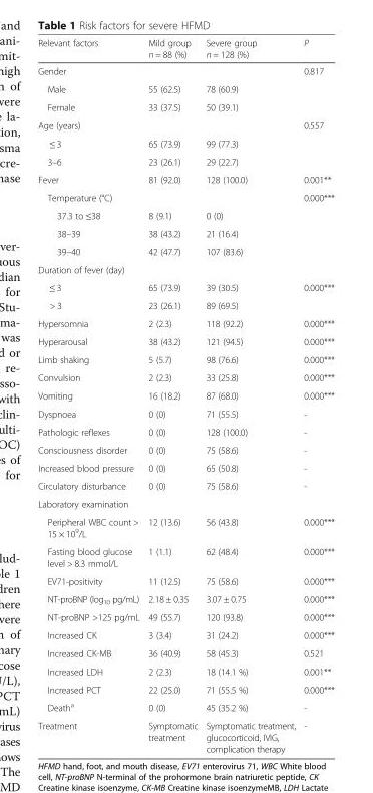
<table><thead><tr><td>Relevant factors</td><td>Mild group n = 88 (%)</td><td>Severe group n = 128 (%)</td><td>P</td></tr></thead><tbody><tr><td>Gender</td><td></td><td></td><td>0.817</td></tr><tr><td>Male</td><td>55 (62.5)</td><td>78 (60.9)</td><td></td></tr><tr><td>Female</td><td>33 (37.5)</td><td>50 (39.1)</td><td></td></tr><tr><td>Age (years)</td><td></td><td></td><td>0.557</td></tr><tr><td>≤ 3</td><td>65 (73.9)</td><td>99 (77.3)</td><td></td></tr><tr><td>3–6</td><td>23 (26.1)</td><td>29 (22.7)</td><td></td></tr><tr><td>Fever</td><td>81 (92.0)</td><td>128 (100.0)</td><td>0.001**</td></tr><tr><td>Temperature (°C)</td><td></td><td></td><td>0.000***</td></tr><tr><td>37.3 to ≤38</td><td>8 (9.1)</td><td>0 (0)</td><td></td></tr><tr><td>38–39</td><td>38 (43.2)</td><td>21 (16.4)</td><td></td></tr><tr><td>39–40</td><td>42 (47.7)</td><td>107 (83.6)</td><td></td></tr><tr><td colspan="4">Duration of fever (day)</td></tr><tr><td>≤ 3</td><td>65 (73.9)</td><td>39 (30.5)</td><td>0.000***</td></tr><tr><td>&gt; 3</td><td>23 (26.1)</td><td>89 (69.5)</td><td></td></tr><tr><td>Hypersomnia</td><td>2 (2.3)</td><td>118 (92.2)</td><td>0.000***</td></tr><tr><td>Hyperarousal</td><td>38 (43.2)</td><td>121 (94.5)</td><td>0.000***</td></tr><tr><td>Limb shaking</td><td>5 (5.7)</td><td>98 (76.6)</td><td>0.000***</td></tr><tr><td>Convulsion</td><td>2 (2.3)</td><td>33 (25.8)</td><td>0.000***</td></tr><tr><td>Vomiting</td><td>16 (18.2)</td><td>87 (68.0)</td><td>0.000***</td></tr><tr><td>Dyspnoea</td><td>0 (0)</td><td>71 (55.5)</td><td>-</td></tr><tr><td>Pathologic reflexes</td><td>0 (0)</td><td>128 (100.0)</td><td>-</td></tr><tr><td>Consciousness disorder</td><td>0 (0)</td><td>75 (58.6)</td><td>-</td></tr><tr><td>Increased blood pressure</td><td>0 (0)</td><td>65 (50.8)</td><td>-</td></tr><tr><td>Circulatory disturbance</td><td>0 (0)</td><td>75 (58.6)</td><td>-</td></tr><tr><td colspan="4">Laboratory examination</td></tr><tr><td>Peripheral WBC count &gt; 15 × 10<sup>9</sup>/L</td><td>12 (13.6)</td><td>56 (43.8)</td><td>0.000***</td></tr><tr><td>Fasting blood glucose level &gt; 8.3 mmol/L</td><td>1 (1.1)</td><td>62 (48.4)</td><td>0.000***</td></tr><tr><td>EV71-positivity</td><td>11 (12.5)</td><td>75 (58.6)</td><td>0.000***</td></tr><tr><td>NT-proBNP (log<sub>10</sub> pg/mL)</td><td>2.18 ± 0.35</td><td>3.07 ± 0.75</td><td>0.000***</td></tr><tr><td>NT-proBNP &gt;125 pg/mL</td><td>49 (55.7)</td><td>120 (93.8)</td><td>0.000***</td></tr><tr><td>Increased CK</td><td>3 (3.4)</td><td>31 (24.2)</td><td>0.000***</td></tr><tr><td>Increased CK-MB</td><td>36 (40.9)</td><td>58 (45.3)</td><td>0.521</td></tr><tr><td>Increased LDH</td><td>2 (2.3)</td><td>18 (14.1 %)</td><td>0.001**</td></tr><tr><td>Increased PCT</td><td>22 (25.0)</td><td>71 (55.5 %)</td><td>0.000***</td></tr><tr><td>Death<sup>a</sup></td><td>0 (0)</td><td>45 (35.2 %)</td><td>-</td></tr><tr><td>Treatment</td><td>Symptomatic treatment</td><td>Symptomatic treatment, glucocorticoid, IVIG, complication therapy</td><td>-</td></tr></tbody></table>